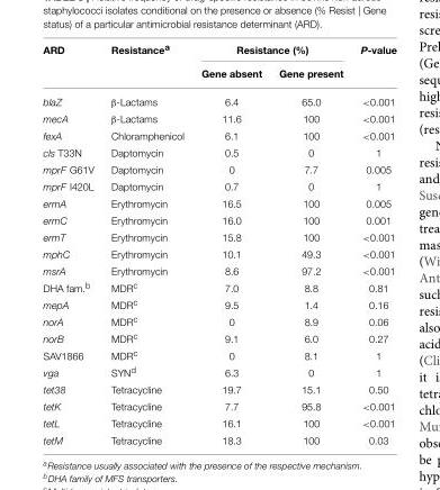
<table><thead><tr><td rowspan="2">ARD</td><td rowspan="2">Resistance<sup>a</sup></td><td colspan="2">Resistance (%)</td><td rowspan="2">P-value</td></tr><tr><td>Gene absent</td><td>Gene present</td></tr></thead><tbody><tr><td>blaZ</td><td>β-Lactams</td><td>6.4</td><td>65.0</td><td>&lt;0.001</td></tr><tr><td>mecA</td><td>β-Lactams</td><td>11.6</td><td>100</td><td>&lt;0.001</td></tr><tr><td>fexA</td><td>Chloramphenicol</td><td>6.1</td><td>100</td><td>&lt;0.001</td></tr><tr><td>cls T33N</td><td>Daptomycin</td><td>0.5</td><td>0</td><td>1</td></tr><tr><td>mprF G61V</td><td>Daptomycin</td><td>0</td><td>7.7</td><td>0.005</td></tr><tr><td>mprF I420L</td><td>Daptomycin</td><td>0.7</td><td>0</td><td>1</td></tr><tr><td>ermA</td><td>Erythromycin</td><td>16.5</td><td>100</td><td>0.005</td></tr><tr><td>ermC</td><td>Erythromycin</td><td>16.0</td><td>100</td><td>0.001</td></tr><tr><td>ermT</td><td>Erythromycin</td><td>15.8</td><td>100</td><td>&lt;0.001</td></tr><tr><td>mphC</td><td>Erythromycin</td><td>10.1</td><td>49.3</td><td>&lt;0.001</td></tr><tr><td>msrA</td><td>Erythromycin</td><td>8.6</td><td>97.2</td><td>&lt;0.001</td></tr><tr><td>DHA fam.<sup>b</sup></td><td>MDR<sup>c</sup></td><td>7.0</td><td>8.8</td><td>0.81</td></tr><tr><td>mepA</td><td>MDR<sup>c</sup></td><td>9.5</td><td>1.4</td><td>0.16</td></tr><tr><td>norA</td><td>MDR<sup>c</sup></td><td>0</td><td>8.9</td><td>0.06</td></tr><tr><td>norB</td><td>MDR<sup>c</sup></td><td>9.1</td><td>6.0</td><td>0.27</td></tr><tr><td>SAV1866</td><td>MDR<sup>c</sup></td><td>0</td><td>8.1</td><td>1</td></tr><tr><td>vga</td><td>SYN<sup>d</sup></td><td>6.3</td><td>0</td><td>1</td></tr><tr><td>tet38</td><td>Tetracycline</td><td>19.7</td><td>15.1</td><td>0.50</td></tr><tr><td>tetK</td><td>Tetracycline</td><td>7.7</td><td>95.8</td><td>&lt;0.001</td></tr><tr><td>tetL</td><td>Tetracycline</td><td>16.1</td><td>100</td><td>&lt;0.001</td></tr><tr><td>tetM</td><td>Tetracycline</td><td>18.3</td><td>100</td><td>0.03</td></tr></tbody></table>